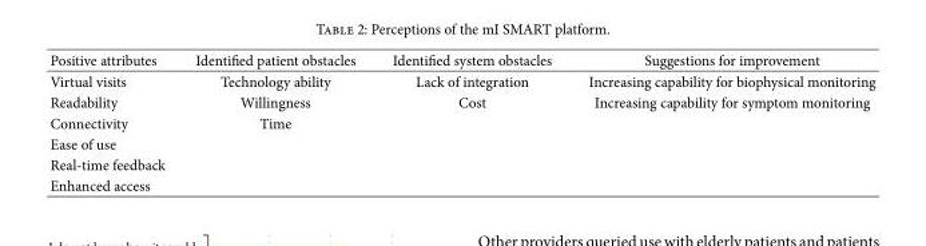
<table><thead><tr><td>Positive attributes</td><td>Identified patient obstacles</td><td>Identified system obstacles</td><td>Suggestions for improvement</td></tr></thead><tbody><tr><td>Virtual visits</td><td>Technology ability</td><td>Lack of integration</td><td>Increasing capability for biophysical monitoring</td></tr><tr><td>Readability</td><td>Willingness</td><td>Cost</td><td>Increasing capability for symptom monitoring</td></tr><tr><td>Connectivity</td><td>Time</td><td></td><td></td></tr><tr><td colspan="4">Ease of use</td></tr><tr><td colspan="4">Real-time feedback</td></tr><tr><td>Enhanced access</td><td></td><td></td><td></td></tr></tbody></table>